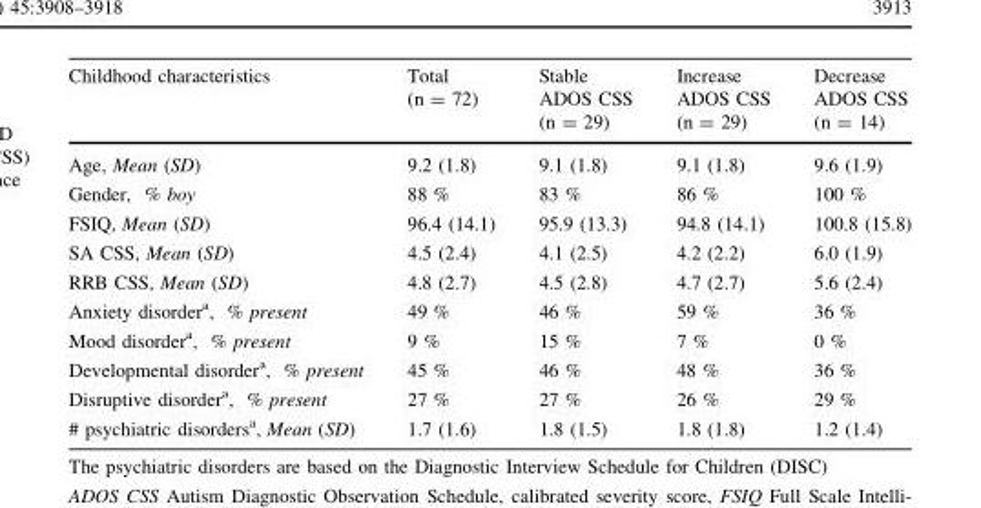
<table><thead><tr><td>Childhood characteristics</td><td>Total (n = 72)</td><td>Stable ADOS CSS (n = 29)</td><td>Increase ADOS CSS (n = 29)</td><td>Decrease ADOS CSS (n = 14)</td></tr></thead><tbody><tr><td>Age, Mean (SD)</td><td>9.2 (1.8)</td><td>9.1 (1.8)</td><td>9.1 (1.8)</td><td>9.6 (1.9)</td></tr><tr><td>Gender, % boy</td><td>88 %</td><td>83 %</td><td>86 %</td><td>100 %</td></tr><tr><td>FSIQ, Mean (SD)</td><td>96.4 (14.1)</td><td>95.9 (13.3)</td><td>94.8 (14.1)</td><td>100.8 (15.8)</td></tr><tr><td>SA CSS, Mean (SD)</td><td>4.5 (2.4)</td><td>4.1 (2.5)</td><td>4.2 (2.2)</td><td>6.0 (1.9)</td></tr><tr><td>RRB CSS, Mean (SD)</td><td>4.8 (2.7)</td><td>4.5 (2.8)</td><td>4.7 (2.7)</td><td>5.6 (2.4)</td></tr><tr><td>Anxiety disorder<sup>a</sup>, % present</td><td>49 %</td><td>46 %</td><td>59 %</td><td>36 %</td></tr><tr><td>Mood disorder<sup>a</sup>, % present</td><td>9 %</td><td>15 %</td><td>7 %</td><td>0 %</td></tr><tr><td>Developmental disorder<sup>a</sup>, % present</td><td>45 %</td><td>46 %</td><td>48 %</td><td>36 %</td></tr><tr><td>Disruptive disorder<sup>a</sup>, % present</td><td>27 %</td><td>27 %</td><td>26 %</td><td>29 %</td></tr><tr><td># psychiatric disorders<sup>a</sup>, Mean (SD)</td><td>1.7 (1.6)</td><td>1.8 (1.5)</td><td>1.8 (1.8)</td><td>1.2 (1.4)</td></tr></tbody></table>